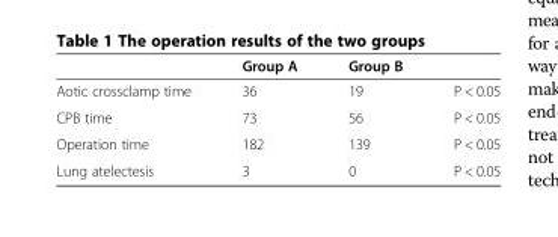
<table><thead><tr><td></td><td>Group A</td><td>Group B</td><td></td></tr></thead><tbody><tr><td>Aotic crossclamp time</td><td>36</td><td>19</td><td>P &lt; 0.05</td></tr><tr><td>CPB time</td><td>73</td><td>56</td><td>P &lt; 0.05</td></tr><tr><td>Operation time</td><td>182</td><td>139</td><td>P &lt; 0.05</td></tr><tr><td>Lung atelectesis</td><td>3</td><td>0</td><td>P &lt; 0.05</td></tr></tbody></table>